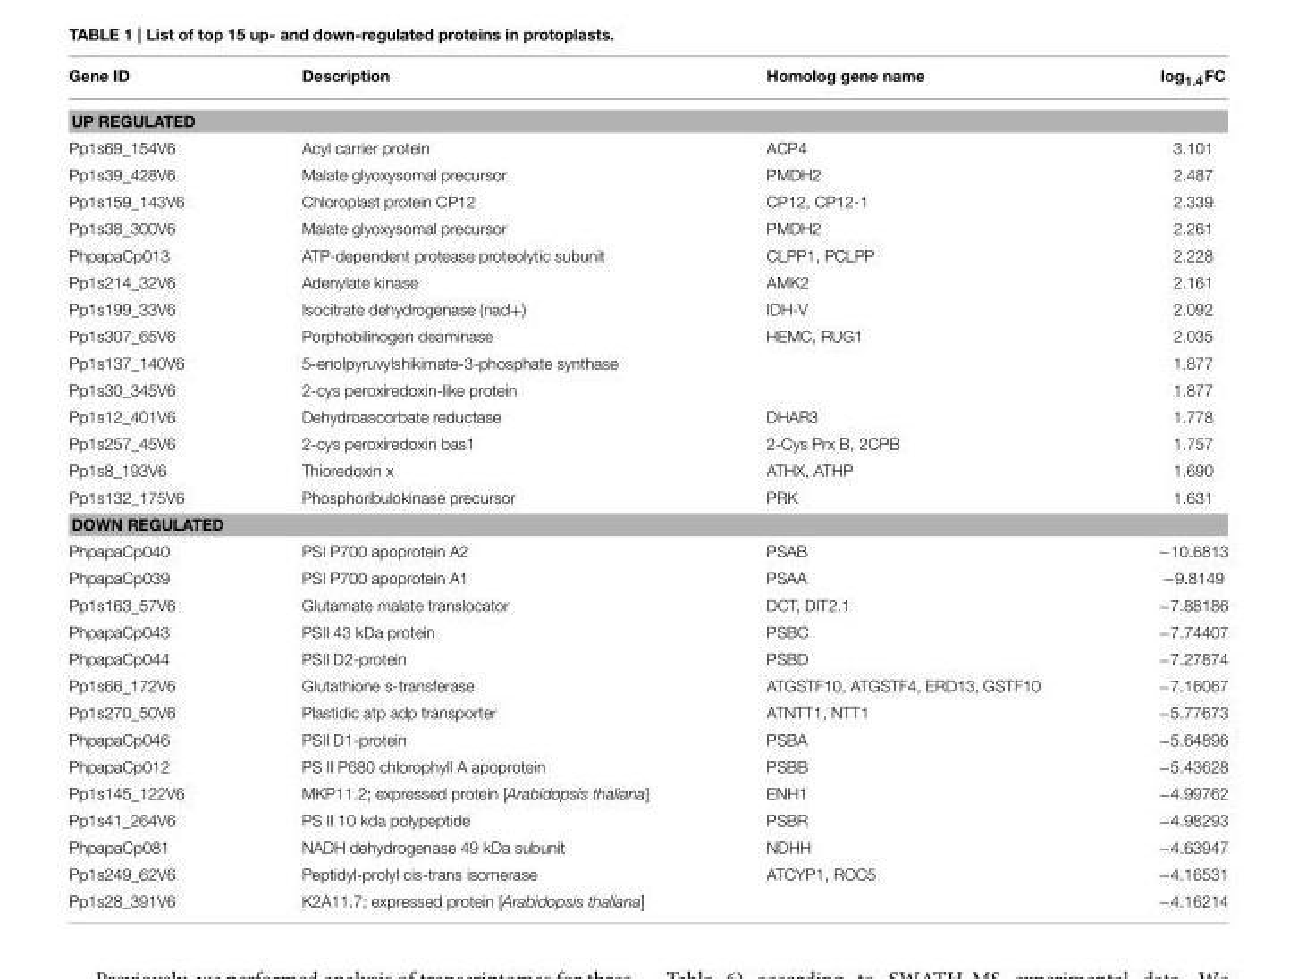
<table><thead><tr><td>Gene ID</td><td>Description</td><td>Homolog gene name</td><td>log<sub>1.4</sub>FC</td></tr></thead><tbody><tr><td colspan="4">UP REGULATED</td></tr><tr><td>Pp1s69_154V6</td><td>Acyl carrier protein</td><td>ACP4</td><td>3.101</td></tr><tr><td>Pp1s39_428V6</td><td>Malate glyoxysomal precursor</td><td>PMDH2</td><td>2.487</td></tr><tr><td>Pp1s159_143V6</td><td>Chloroplast protein CP12</td><td>CP12, CP12-1</td><td>2.339</td></tr><tr><td>Pp1s38_300V6</td><td>Malate glyoxysomal precursor</td><td>PMDH2</td><td>2.261</td></tr><tr><td>PhpapaCp013</td><td>ATP-dependent protease proteolytic subunit</td><td>CLPP1, PCLPP</td><td>2.228</td></tr><tr><td>Pp1s214_32V6</td><td>Adenylate kinase</td><td>AMK2</td><td>2.161</td></tr><tr><td>Pp1s199_33V6</td><td>Isocitrate dehydrogenase (nad+)</td><td>IDH-V</td><td>2.092</td></tr><tr><td>Pp1s307_65V6</td><td>Porphobilinogen deaminase</td><td>HEMC, RUG1</td><td>2.035</td></tr><tr><td>Pp1s137_140V6</td><td>5-enolpyruvylshikimate-3-phosphate synthase</td><td></td><td>1.877</td></tr><tr><td>Pp1s30_345V6</td><td>2-cys peroxiredoxin-like protein</td><td></td><td>1.877</td></tr><tr><td>Pp1s12_401V6</td><td>Dehydroascorbate reductase</td><td>DHAR3</td><td>1.778</td></tr><tr><td>Pp1s257_45V6</td><td>2-cys peroxiredoxin bas1</td><td>2-Cys Prx B, 2CPB</td><td>1.757</td></tr><tr><td>Pp1s8_193V6</td><td>Thioredoxin x</td><td>ATHX, ATHP</td><td>1.690</td></tr><tr><td>Pp1s132_175V6</td><td>Phosphoribulokinase precursor</td><td>PRK</td><td>1.631</td></tr><tr><td colspan="4">DOWN REGULATED</td></tr><tr><td>PhpapaCp040</td><td>PSI P700 apoprotein A2</td><td>PSAB</td><td>−10.6813</td></tr><tr><td>PhpapaCp039</td><td>PSI P700 apoprotein A1</td><td>PSAA</td><td>−9.8149</td></tr><tr><td>Pp1s163_57V6</td><td>Glutamate malate translocator</td><td>DCT, DIT2.1</td><td>−7.88186</td></tr><tr><td>PhpapaCp043</td><td>PSII 43 kDa protein</td><td>PSBC</td><td>−7.74407</td></tr><tr><td>PhpapaCp044</td><td>PSII D2-protein</td><td>PSBD</td><td>−7.27874</td></tr><tr><td>Pp1s66_172V6</td><td>Glutathione s-transferase</td><td>ATGSTF10, ATGSTF4, ERD13, GSTF10</td><td>−7.16067</td></tr><tr><td>Pp1s270_50V6</td><td>Plastidic atp adp transporter</td><td>ATNTT1, NTT1</td><td>−5.77673</td></tr><tr><td>PhpapaCp046</td><td>PSII D1-protein</td><td>PSBA</td><td>−5.64896</td></tr><tr><td>PhpapaCp012</td><td>PS II P680 chlorophyll A apoprotein</td><td>PSBB</td><td>−5.43628</td></tr><tr><td>Pp1s145_122V6</td><td>MKP11.2; expressed protein [Arabidopsis thaliana]</td><td>ENH1</td><td>−4.99762</td></tr><tr><td>Pp1s41_264V6</td><td>PS II 10 kda polypeptide</td><td>PSBR</td><td>−4.98293</td></tr><tr><td>PhpapaCp081</td><td>NADH dehydrogenase 49 kDa subunit</td><td>NDHH</td><td>−4.63947</td></tr><tr><td>Pp1s249_62V6</td><td>Peptidyl-prolyl cis-trans isomerase</td><td>ATCYP1, ROC5</td><td>−4.16531</td></tr><tr><td>Pp1s28_391V6</td><td>K2A11.7; expressed protein [Arabidopsis thaliana]</td><td></td><td>−4.16214</td></tr></tbody></table>